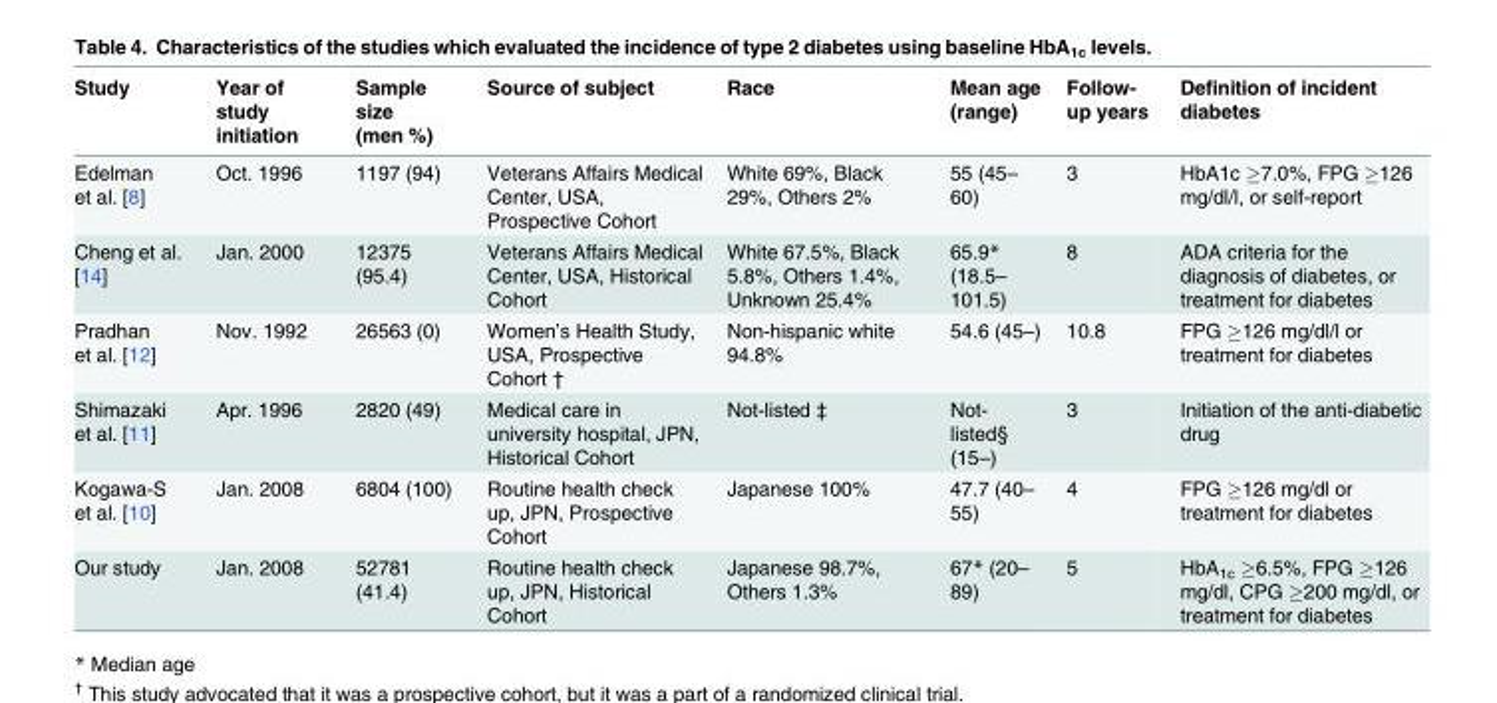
<table><thead><tr><td>Study</td><td>Year of study initiation</td><td>Sample size (men %)</td><td>Source of subject</td><td>Race</td><td>Mean age (range)</td><td>Follow- up years</td><td>Definition of incident diabetes</td></tr></thead><tbody><tr><td>Edelman et al. [8]</td><td>Oct. 1996</td><td>1197 (94)</td><td>Veterans Affairs Medical Center, USA, Prospective Cohort</td><td>White 69%, Black 29%, Others 2%</td><td>55 (45– 60)</td><td>3</td><td>HbA1c ≥7.0%, FPG ≥126 mg/dl/l, or self-report</td></tr><tr><td>Cheng et al. [14]</td><td>Jan. 2000</td><td>12375 (95.4)</td><td>Veterans Affairs Medical Center, USA, Historical Cohort</td><td>White 67.5%, Black 5.8%, Others 1.4%, Unknown 25.4%</td><td>65.9* (18.5– 101.5)</td><td>8</td><td>ADA criteria for the diagnosis of diabetes, or treatment for diabetes</td></tr><tr><td>Pradhan et al. [12]</td><td>Nov. 1992</td><td>26563 (0)</td><td>Women’s Health Study, USA, Prospective Cohort †</td><td>Non-hispanic white 94.8%</td><td>54.6 (45–)</td><td>10.8</td><td>FPG ≥126 mg/dl/l or treatment for diabetes</td></tr><tr><td>Shimazaki et al. [11]</td><td>Apr. 1996</td><td>2820 (49)</td><td>Medical care in university hospital, JPN, Historical Cohort</td><td>Not-listed ‡</td><td>Not- listed§ (15–)</td><td>3</td><td>Initiation of the anti-diabetic drug</td></tr><tr><td>Kogawa-S et al. [10]</td><td>Jan. 2008</td><td>6804 (100)</td><td>Routine health check up, JPN, Prospective Cohort</td><td>Japanese 100%</td><td>47.7 (40– 55)</td><td>4</td><td>FPG ≥126 mg/dl or treatment for diabetes</td></tr><tr><td>Our study</td><td>Jan. 2008</td><td>52781 (41.4)</td><td>Routine health check up, JPN, Historical Cohort</td><td>Japanese 98.7%, Others 1.3%</td><td>67* (20– 89)</td><td>5</td><td>HbA<sub>1c</sub> ≥6.5%, FPG ≥126 mg/dl, CPG ≥200 mg/dl, or treatment for diabetes</td></tr></tbody></table>